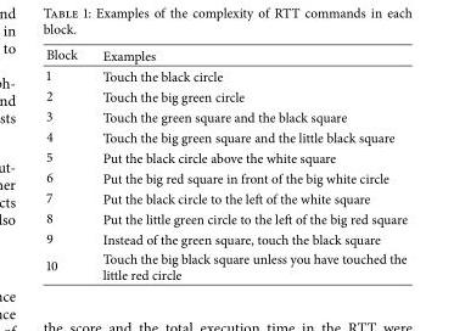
<table><thead><tr><td>Block</td><td>Examples</td></tr></thead><tbody><tr><td>1</td><td>Touch the black circle</td></tr><tr><td>2</td><td>Touch the big green circle</td></tr><tr><td>3</td><td>Touch the green square and the black square</td></tr><tr><td>4</td><td>Touch the big green square and the little black square</td></tr><tr><td>5</td><td>Put the black circle above the white square</td></tr><tr><td>6</td><td>Put the big red square in front of the big white circle</td></tr><tr><td>7</td><td>Put the black circle to the left of the white square</td></tr><tr><td>8</td><td>Put the little green circle to the left of the big red square</td></tr><tr><td>9</td><td>Instead of the green square, touch the black square</td></tr><tr><td>10</td><td>Touch the big black square unless you have touched the little red circle</td></tr></tbody></table>